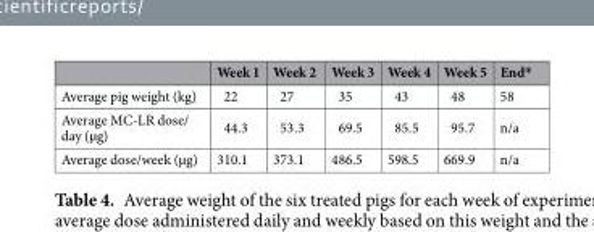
<table><thead><tr><td></td><td>Week 1</td><td>Week 2</td><td>Week 3</td><td>Week 4</td><td>Week 5</td><td>End*</td></tr></thead><tbody><tr><td>Average pig weight (kg)</td><td>22</td><td>27</td><td>35</td><td>43</td><td>48</td><td>58</td></tr><tr><td>Average MC-LR dose/ day (µg)</td><td>44.3</td><td>53.3</td><td>69.5</td><td>85.5</td><td>95.7</td><td>n/a</td></tr><tr><td>Average dose/week (µg)</td><td>310.1</td><td>373.1</td><td>486.5</td><td>598.5</td><td>669.9</td><td>n/a</td></tr></tbody></table>